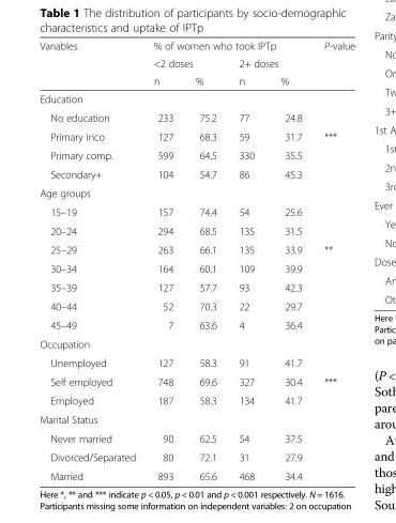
<table><thead><tr><td rowspan="3">Variables</td><td colspan="4">% of women who took IPTp</td><td rowspan="3">P-value</td></tr><tr><td colspan="2">&lt;2 doses</td><td colspan="2">2+ doses</td></tr><tr><td>n</td><td>%</td><td>n</td><td>%</td></tr></thead><tbody><tr><td colspan="6">Education</td></tr><tr><td>No education</td><td>233</td><td>75.2</td><td>77</td><td>24.8</td><td></td></tr><tr><td>Primary inco</td><td>127</td><td>68.3</td><td>59</td><td>31.7</td><td>***</td></tr><tr><td>Primary comp.</td><td>599</td><td>64.5</td><td>330</td><td>35.5</td><td></td></tr><tr><td>Secondary+</td><td>104</td><td>54.7</td><td>86</td><td>45.3</td><td></td></tr><tr><td colspan="6">Age groups</td></tr><tr><td>15–19</td><td>157</td><td>74.4</td><td>54</td><td>25.6</td><td></td></tr><tr><td>20–24</td><td>294</td><td>68.5</td><td>135</td><td>31.5</td><td></td></tr><tr><td>25–29</td><td>263</td><td>66.1</td><td>135</td><td>33.9</td><td>**</td></tr><tr><td>30–34</td><td>164</td><td>60.1</td><td>109</td><td>39.9</td><td></td></tr><tr><td>35–39</td><td>127</td><td>57.7</td><td>93</td><td>42.3</td><td></td></tr><tr><td>40–44</td><td>52</td><td>70.3</td><td>22</td><td>29.7</td><td></td></tr><tr><td>45–49</td><td>7</td><td>63.6</td><td>4</td><td>36.4</td><td></td></tr><tr><td colspan="6">Occupation</td></tr><tr><td>Unemployed</td><td>127</td><td>58.3</td><td>91</td><td>41.7</td><td></td></tr><tr><td>Self employed</td><td>748</td><td>69.6</td><td>327</td><td>30.4</td><td>***</td></tr><tr><td>Employed</td><td>187</td><td>58.3</td><td>134</td><td>41.7</td><td></td></tr><tr><td colspan="6">Marital Status</td></tr><tr><td>Never married</td><td>90</td><td>62.5</td><td>54</td><td>37.5</td><td></td></tr><tr><td>Divorced/Separated</td><td>80</td><td>72.1</td><td>31</td><td>27.9</td><td></td></tr><tr><td>Married</td><td>893</td><td>65.6</td><td>468</td><td>34.4</td><td></td></tr></tbody></table>